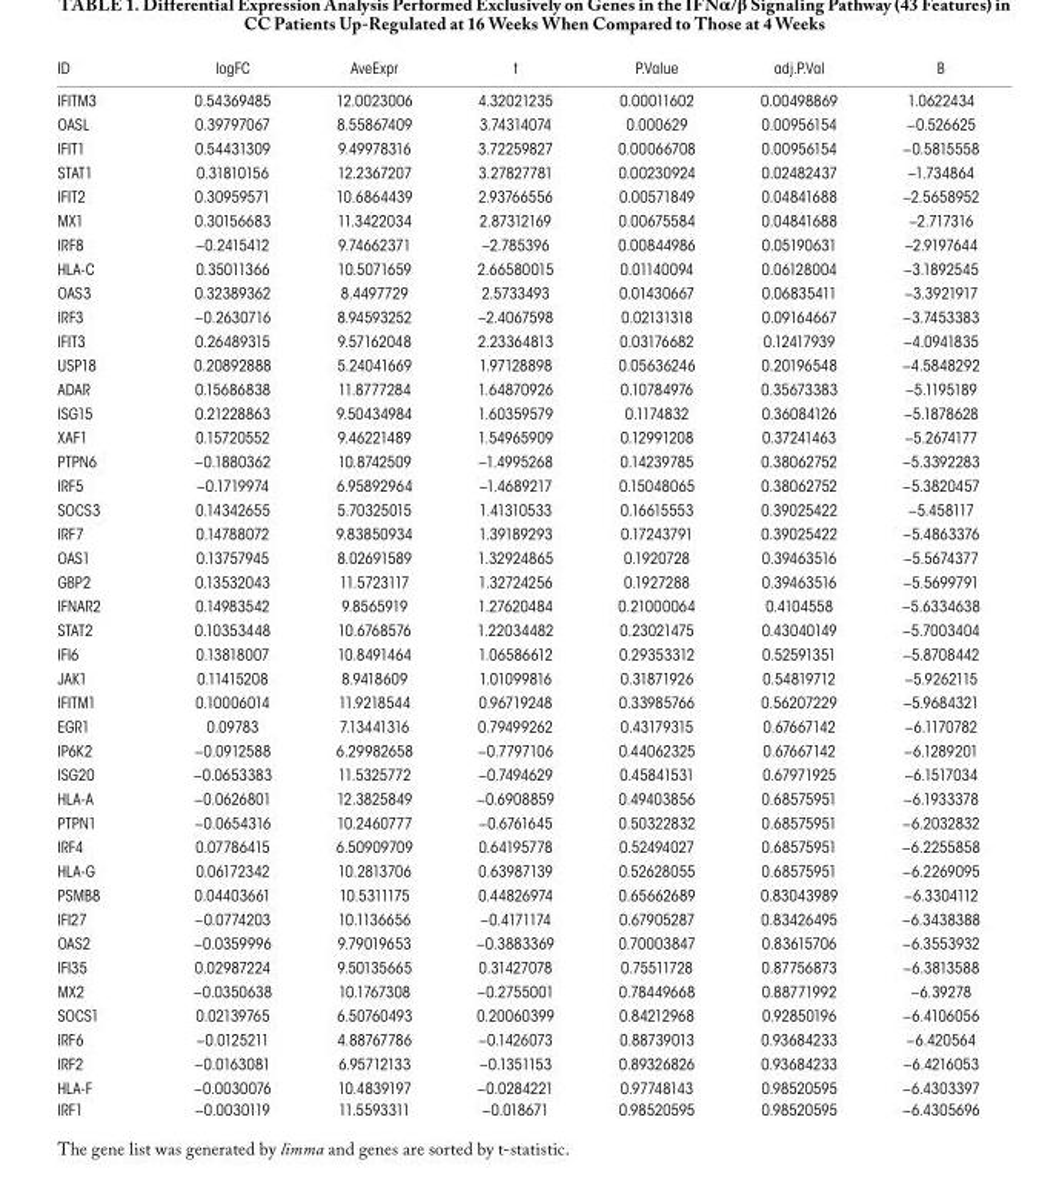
<table><thead><tr><td>ID</td><td>logFC</td><td>AveExpr</td><td>t</td><td>P.Value</td><td>adj.P.Val</td><td>B</td></tr></thead><tbody><tr><td>IFITM3</td><td>0.54369485</td><td>12.0023006</td><td>4.32021235</td><td>0.00011602</td><td>0.00498869</td><td>1.0622434</td></tr><tr><td>OASL</td><td>0.39797067</td><td>8.55867409</td><td>3.74314074</td><td>0.000629</td><td>0.00956154</td><td>−0.526625</td></tr><tr><td>IFIT1</td><td>0.54431309</td><td>9.49978316</td><td>3.72259827</td><td>0.00066708</td><td>0.00956154</td><td>−0.5815558</td></tr><tr><td>STAT1</td><td>0.31810156</td><td>12.2367207</td><td>3.27827781</td><td>0.00230924</td><td>0.02482437</td><td>−1.734864</td></tr><tr><td>IFIT2</td><td>0.30959571</td><td>10.6864439</td><td>2.93766556</td><td>0.00571849</td><td>0.04841688</td><td>−2.5658952</td></tr><tr><td>MX1</td><td>0.30156683</td><td>11.3422034</td><td>2.87312169</td><td>0.00675584</td><td>0.04841688</td><td>−2.717316</td></tr><tr><td>IRF8</td><td>−0.2415412</td><td>9.74662371</td><td>−2.785396</td><td>0.00844986</td><td>0.05190631</td><td>−2.9197644</td></tr><tr><td>HLA-C</td><td>0.35011366</td><td>10.5071659</td><td>2.66580015</td><td>0.01140094</td><td>0.06128004</td><td>−3.1892545</td></tr><tr><td>OAS3</td><td>0.32389362</td><td>8.4497729</td><td>2.5733493</td><td>0.01430667</td><td>0.06835411</td><td>−3.3921917</td></tr><tr><td>IRF3</td><td>−0.2630716</td><td>8.94593252</td><td>−2.4067598</td><td>0.02131318</td><td>0.09164667</td><td>−3.7453383</td></tr><tr><td>IFIT3</td><td>0.26489315</td><td>9.57162048</td><td>2.23364813</td><td>0.03176682</td><td>0.12417939</td><td>−4.0941835</td></tr><tr><td>USP18</td><td>0.20892888</td><td>5.24041669</td><td>1.97128898</td><td>0.05636246</td><td>0.20196548</td><td>−4.5848292</td></tr><tr><td>ADAR</td><td>0.15686838</td><td>11.8777284</td><td>1.64870926</td><td>0.10784976</td><td>0.35673383</td><td>−5.1195189</td></tr><tr><td>ISG15</td><td>0.21228863</td><td>9.50434984</td><td>1.60359579</td><td>0.1174832</td><td>0.36084126</td><td>−5.1878628</td></tr><tr><td>XAF1</td><td>0.15720552</td><td>9.46221489</td><td>1.54965909</td><td>0.12991208</td><td>0.37241463</td><td>−5.2674177</td></tr><tr><td>PTPN6</td><td>−0.1880362</td><td>10.8742509</td><td>−1.4995268</td><td>0.14239785</td><td>0.38062752</td><td>−5.3392283</td></tr><tr><td>IRF5</td><td>−0.1719974</td><td>6.95892964</td><td>−1.4689217</td><td>0.15048065</td><td>0.38062752</td><td>−5.3820457</td></tr><tr><td>SOCS3</td><td>0.14342655</td><td>5.70325015</td><td>1.41310533</td><td>0.16615553</td><td>0.39025422</td><td>−5.458117</td></tr><tr><td>IRF7</td><td>0.14788072</td><td>9.83850934</td><td>1.39189293</td><td>0.17243791</td><td>0.39025422</td><td>−5.4863376</td></tr><tr><td>OAS1</td><td>0.13757945</td><td>8.02691589</td><td>1.32924865</td><td>0.1920728</td><td>0.39463516</td><td>−5.5674377</td></tr><tr><td>GBP2</td><td>0.13532043</td><td>11.5723117</td><td>1.32724256</td><td>0.1927288</td><td>0.39463516</td><td>−5.5699791</td></tr><tr><td>IFNAR2</td><td>0.14983542</td><td>9.8565919</td><td>1.27620484</td><td>0.21000064</td><td>0.4104558</td><td>−5.6334638</td></tr><tr><td>STAT2</td><td>0.10353448</td><td>10.6768576</td><td>1.22034482</td><td>0.23021475</td><td>0.43040149</td><td>−5.7003404</td></tr><tr><td>IFI6</td><td>0.13818007</td><td>10.8491464</td><td>1.06586612</td><td>0.29353312</td><td>0.52591351</td><td>−5.8708442</td></tr><tr><td>JAK1</td><td>0.11415208</td><td>8.9418609</td><td>1.01099816</td><td>0.31871926</td><td>0.54819712</td><td>−5.9262115</td></tr><tr><td>IFITM1</td><td>0.10006014</td><td>11.9218544</td><td>0.96719248</td><td>0.33985766</td><td>0.56207229</td><td>−5.9684321</td></tr><tr><td>EGR1</td><td>0.09783</td><td>7.13441316</td><td>0.79499262</td><td>0.43179315</td><td>0.67667142</td><td>−6.1170782</td></tr><tr><td>IP6K2</td><td>−0.0912588</td><td>6.29982658</td><td>−0.7797106</td><td>0.44062325</td><td>0.67667142</td><td>−6.1289201</td></tr><tr><td>ISG20</td><td>−0.0653383</td><td>11.5325772</td><td>−0.7494629</td><td>0.45841531</td><td>0.67971925</td><td>−6.1517034</td></tr><tr><td>HLA-A</td><td>−0.0626801</td><td>12.3825849</td><td>−0.6908859</td><td>0.49403856</td><td>0.68575951</td><td>−6.1933378</td></tr><tr><td>PTPN1</td><td>−0.0654316</td><td>10.2460777</td><td>−0.6761645</td><td>0.50322832</td><td>0.68575951</td><td>−6.2032832</td></tr><tr><td>IRF4</td><td>0.07786415</td><td>6.50909709</td><td>0.64195778</td><td>0.52494027</td><td>0.68575951</td><td>−6.2255858</td></tr><tr><td>HLA-G</td><td>0.06172342</td><td>10.2813706</td><td>0.63987139</td><td>0.52628055</td><td>0.68575951</td><td>−6.2269095</td></tr><tr><td>PSMB8</td><td>0.04403661</td><td>10.5311175</td><td>0.44826974</td><td>0.65662689</td><td>0.83043989</td><td>−6.3304112</td></tr><tr><td>IFI27</td><td>−0.0774203</td><td>10.1136656</td><td>−0.4171174</td><td>0.67905287</td><td>0.83426495</td><td>−6.3438388</td></tr><tr><td>OAS2</td><td>−0.0359996</td><td>9.79019653</td><td>−0.3883369</td><td>0.70003847</td><td>0.83615706</td><td>−6.3553932</td></tr><tr><td>IFI35</td><td>0.02987224</td><td>9.50135665</td><td>0.31427078</td><td>0.75511728</td><td>0.87756873</td><td>−6.3813588</td></tr><tr><td>MX2</td><td>−0.0350638</td><td>10.1767308</td><td>−0.2755001</td><td>0.78449668</td><td>0.88771992</td><td>−6.39278</td></tr><tr><td>SOCS1</td><td>0.02139765</td><td>6.50760493</td><td>0.20060399</td><td>0.84212968</td><td>0.92850196</td><td>−6.4106056</td></tr><tr><td>IRF6</td><td>−0.0125211</td><td>4.88767786</td><td>−0.1426073</td><td>0.88739013</td><td>0.93684233</td><td>−6.420564</td></tr><tr><td>IRF2</td><td>−0.0163081</td><td>6.95712133</td><td>−0.1351153</td><td>0.89326826</td><td>0.93684233</td><td>−6.4216053</td></tr><tr><td>HLA-F</td><td>−0.0030076</td><td>10.4839197</td><td>−0.0284221</td><td>0.97748143</td><td>0.98520595</td><td>−6.4303397</td></tr><tr><td>IRF1</td><td>−0.0030119</td><td>11.5593311</td><td>−0.018671</td><td>0.98520595</td><td>0.98520595</td><td>−6.4305696</td></tr></tbody></table>